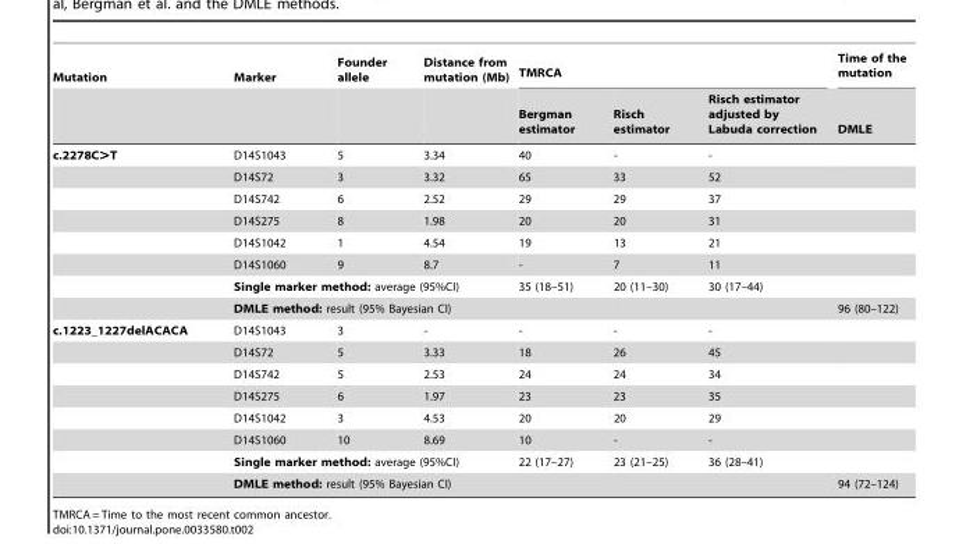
<table><thead><tr><td rowspan="2">Mutation</td><td rowspan="2">Marker</td><td rowspan="2">Founder allele</td><td rowspan="2">Distance from mutation (Mb)</td><td colspan="3">TMRCA</td><td rowspan="2">Time of the mutation DMLE</td></tr><tr><td>Bergman estimator</td><td>Risch estimator</td><td>Risch estimator adjusted by Labuda correction</td></tr></thead><tbody><tr><td rowspan="8">c.2278C&gt;T</td><td>D14S1043</td><td>5</td><td>3.34</td><td>40</td><td>-</td><td>-</td><td></td></tr><tr><td>D14S72</td><td>3</td><td>3.32</td><td>65</td><td>33</td><td>52</td><td></td></tr><tr><td>D14S742</td><td>6</td><td>2.52</td><td>29</td><td>29</td><td>37</td><td></td></tr><tr><td>D14S275</td><td>8</td><td>1.98</td><td>20</td><td>20</td><td>31</td><td></td></tr><tr><td>D14S1042</td><td>1</td><td>4.54</td><td>19</td><td>13</td><td>21</td><td></td></tr><tr><td>D14S1060</td><td>9</td><td>8.7</td><td>-</td><td>7</td><td>11</td><td></td></tr><tr><td colspan="3">Single marker method: average (95%CI)</td><td>35 (18–51)</td><td>20 (11–30)</td><td>30 (17–44)</td><td></td></tr><tr><td colspan="4">DMLE method: result (95% Bayesian CI)</td><td></td><td></td><td>96 (80–122)</td></tr><tr><td rowspan="8">c.1223_1227delACACA</td><td>D14S1043</td><td>3</td><td>-</td><td>-</td><td>-</td><td>-</td><td></td></tr><tr><td>D14S72</td><td>5</td><td>3.33</td><td>18</td><td>26</td><td>45</td><td></td></tr><tr><td>D14S742</td><td>5</td><td>2.53</td><td>24</td><td>24</td><td>34</td><td></td></tr><tr><td>D14S275</td><td>6</td><td>1.97</td><td>23</td><td>23</td><td>35</td><td></td></tr><tr><td>D14S1042</td><td>3</td><td>4.53</td><td>20</td><td>20</td><td>29</td><td></td></tr><tr><td>D14S1060</td><td>10</td><td>8.69</td><td>10</td><td>-</td><td>-</td><td></td></tr><tr><td colspan="3">Single marker method: average (95%CI)</td><td>22 (17–27)</td><td>23 (21–25)</td><td>36 (28–41)</td><td></td></tr><tr><td colspan="4">DMLE method: result (95% Bayesian CI)</td><td></td><td></td><td>94 (72–124)</td></tr></tbody></table>